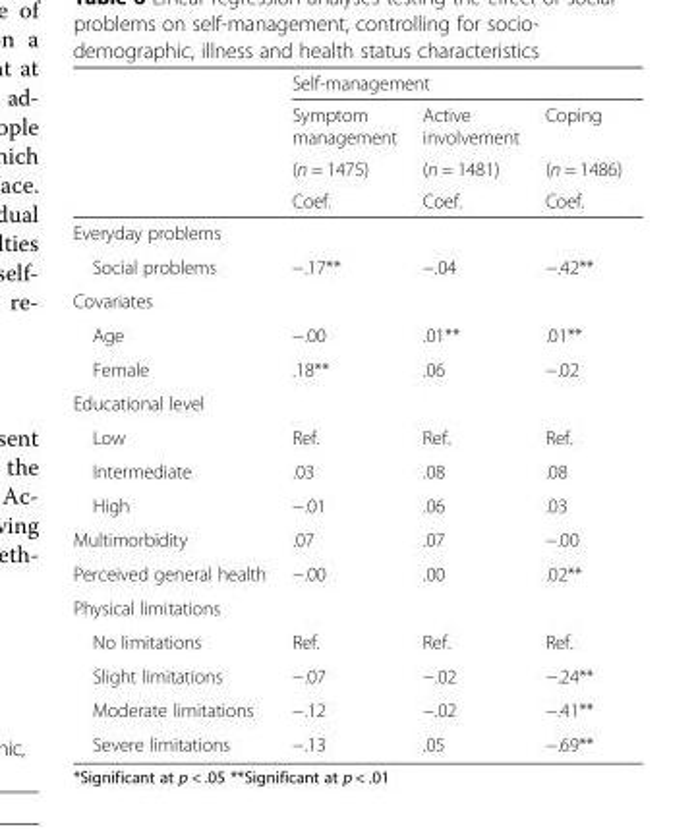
<table><thead><tr><td rowspan="4"></td><td colspan="3">Self-management</td></tr><tr><td rowspan="3">Symptom management (n = 1475) Coef.</td><td rowspan="3">Active involvement (n = 1481) Coef.</td><td rowspan="3">Coping (n = 1486) Coef.</td></tr><tr></tr><tr></tr></thead><tbody><tr><td colspan="4">Everyday problems</td></tr><tr><td>Social problems</td><td>−.17**</td><td>−.04</td><td>−.42**</td></tr><tr><td colspan="4">Covariates</td></tr><tr><td>Age</td><td>−.00</td><td>.01**</td><td>.01**</td></tr><tr><td>Female</td><td>.18**</td><td>.06</td><td>−.02</td></tr><tr><td colspan="4">Educational level</td></tr><tr><td>Low</td><td>Ref.</td><td>Ref.</td><td>Ref.</td></tr><tr><td>Intermediate</td><td>.03</td><td>.08</td><td>.08</td></tr><tr><td>High</td><td>−.01</td><td>.06</td><td>.03</td></tr><tr><td>Multimorbidity</td><td>.07</td><td>.07</td><td>−.00</td></tr><tr><td>Perceived general health</td><td>−.00</td><td>.00</td><td>.02**</td></tr><tr><td colspan="4">Physical limitations</td></tr><tr><td>No limitations</td><td>Ref.</td><td>Ref.</td><td>Ref.</td></tr><tr><td>Slight limitations</td><td>−.07</td><td>−.02</td><td>−.24**</td></tr><tr><td>Moderate limitations</td><td>−.12</td><td>−.02</td><td>−.41**</td></tr><tr><td>Severe limitations</td><td>−.13</td><td>.05</td><td>−.69**</td></tr></tbody></table>